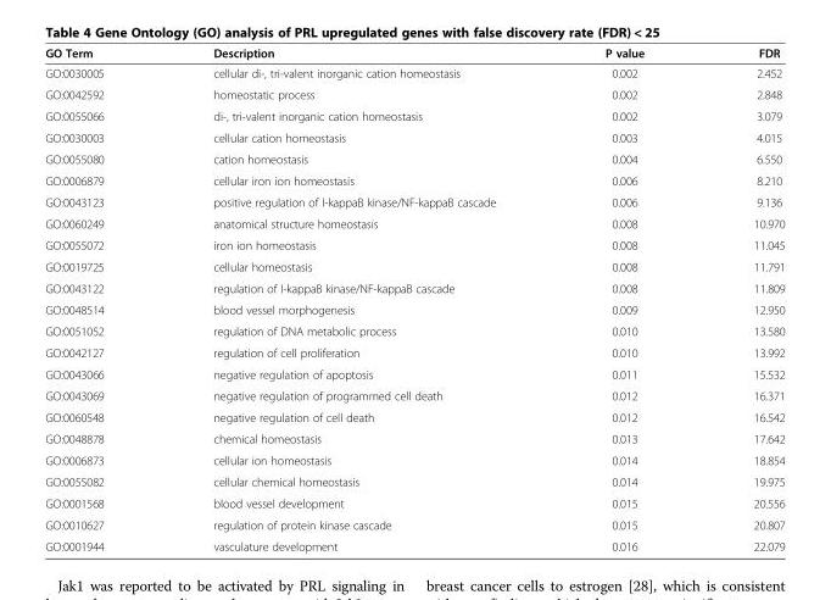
<table><thead><tr><td>GO Term</td><td>Description</td><td>P value</td><td>FDR</td></tr></thead><tbody><tr><td>GO:0030005</td><td>cellular di-, tri-valent inorganic cation homeostasis</td><td>0.002</td><td>2.452</td></tr><tr><td>GO:0042592</td><td>homeostatic process</td><td>0.002</td><td>2.848</td></tr><tr><td>GO:0055066</td><td>di-, tri-valent inorganic cation homeostasis</td><td>0.002</td><td>3.079</td></tr><tr><td>GO:0030003</td><td>cellular cation homeostasis</td><td>0.003</td><td>4.015</td></tr><tr><td>GO:0055080</td><td>cation homeostasis</td><td>0.004</td><td>6.550</td></tr><tr><td>GO:0006879</td><td>cellular iron ion homeostasis</td><td>0.006</td><td>8.210</td></tr><tr><td>GO:0043123</td><td>positive regulation of I-kappaB kinase/NF-kappaB cascade</td><td>0.006</td><td>9.136</td></tr><tr><td>GO:0060249</td><td>anatomical structure homeostasis</td><td>0.008</td><td>10.970</td></tr><tr><td>GO:0055072</td><td>iron ion homeostasis</td><td>0.008</td><td>11.045</td></tr><tr><td>GO:0019725</td><td>cellular homeostasis</td><td>0.008</td><td>11.791</td></tr><tr><td>GO:0043122</td><td>regulation of I-kappaB kinase/NF-kappaB cascade</td><td>0.008</td><td>11.809</td></tr><tr><td>GO:0048514</td><td>blood vessel morphogenesis</td><td>0.009</td><td>12.950</td></tr><tr><td>GO:0051052</td><td>regulation of DNA metabolic process</td><td>0.010</td><td>13.580</td></tr><tr><td>GO:0042127</td><td>regulation of cell proliferation</td><td>0.010</td><td>13.992</td></tr><tr><td>GO:0043066</td><td>negative regulation of apoptosis</td><td>0.011</td><td>15.532</td></tr><tr><td>GO:0043069</td><td>negative regulation of programmed cell death</td><td>0.012</td><td>16.371</td></tr><tr><td>GO:0060548</td><td>negative regulation of cell death</td><td>0.012</td><td>16.542</td></tr><tr><td>GO:0048878</td><td>chemical homeostasis</td><td>0.013</td><td>17.642</td></tr><tr><td>GO:0006873</td><td>cellular ion homeostasis</td><td>0.014</td><td>18.854</td></tr><tr><td>GO:0055082</td><td>cellular chemical homeostasis</td><td>0.014</td><td>19.975</td></tr><tr><td>GO:0001568</td><td>blood vessel development</td><td>0.015</td><td>20.556</td></tr><tr><td>GO:0010627</td><td>regulation of protein kinase cascade</td><td>0.015</td><td>20.807</td></tr><tr><td>GO:0001944</td><td>vasculature development</td><td>0.016</td><td>22.079</td></tr></tbody></table>